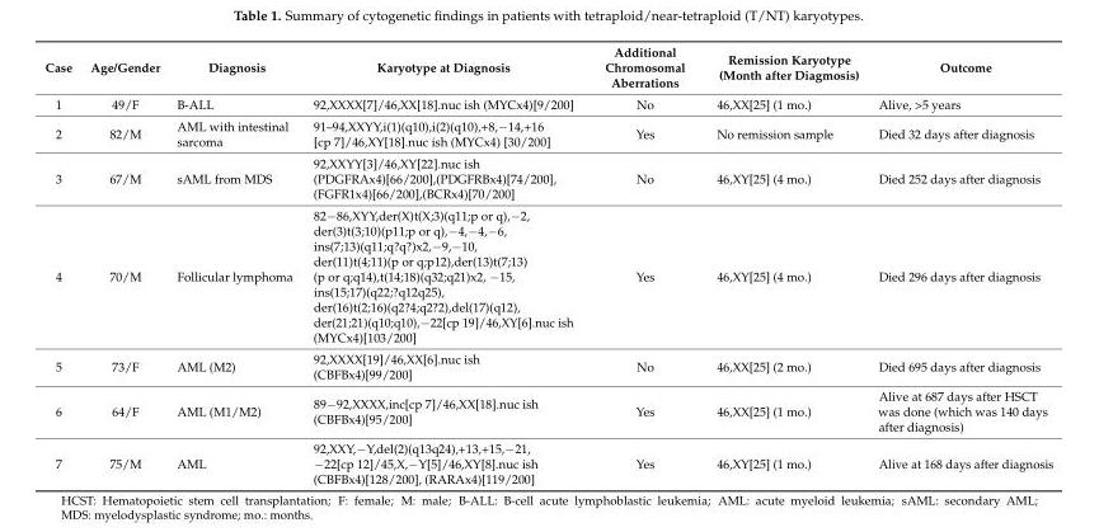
<table><thead><tr><td>Case</td><td>Age/Gender</td><td>Diagnosis</td><td>Karyotype at Diagnosis</td><td>Additional Chromosomal Aberrations</td><td>Remission Karyotype (Month after Diagmosis)</td><td>Outcome</td></tr></thead><tbody><tr><td>1</td><td>49/F</td><td>B-ALL</td><td>92,XXXX[7]/46,XX[18].nuc ish (MYCx4)[9/200]</td><td>No</td><td>46,XX[25] (1 mo.)</td><td>Alive, &gt;5 years</td></tr><tr><td>2</td><td>82/M</td><td>AML with intestinal sarcoma</td><td>91–94,XXYY,i(1)(q10),i(2)(q10),+8,−14,+16 [cp 7]/46,XY[18].nuc ish (MYCx4) [30/200]</td><td>Yes</td><td>No remission sample</td><td>Died 32 days after diagnosis</td></tr><tr><td>3</td><td>67/M</td><td>sAML from MDS</td><td>92,XXYY[3]/46,XY[22].nuc ish (PDGFRAx4)[66/200],(PDGFRBx4)[74/200], (FGFR1x4)[66/200],(BCRx4)[70/200]</td><td>No</td><td>46,XY[25] (4 mo.)</td><td>Died 252 days after diagnosis</td></tr><tr><td>4</td><td>70/M</td><td>Follicular lymphoma</td><td>82−86,XYY,der(X)t(X;3)(q11;p or q),−2, der(3)t(3;10)(p11;p or q),−4,−4,−6, ins(7;13)(q11;q?q?)x2,−9,−10, der(11)t(4;11)(p or q;p12),der(13)t(7;13) (p or q;q14),t(14;18)(q32;q21)x2, −15, ins(15;17)(q22;?q12q25), der(16)t(2;16)(q2?4;q2?2),del(17)(q12), der(21;21)(q10;q10),−22[cp 19]/46,XY[6].nuc ish (MYCx4)[103/200]</td><td>Yes</td><td>46,XY[25] (4 mo.)</td><td>Died 296 days after diagnosis</td></tr><tr><td>5</td><td>73/F</td><td>AML (M2)</td><td>92,XXXX[19]/46,XX[6].nuc ish (CBFBx4)[99/200]</td><td>No</td><td>46,XX[25] (2 mo.)</td><td>Died 695 days after diagnosis</td></tr><tr><td>6</td><td>64/F</td><td>AML (M1/M2)</td><td>89−92,XXXX,inc[cp 7]/46,XX[18].nuc ish (CBFBx4)[95/200]</td><td>Yes</td><td>46,XX[25] (1 mo.)</td><td>Alive at 687 days after HSCT was done (which was 140 days after diagnosis)</td></tr><tr><td>7</td><td>75/M</td><td>AML</td><td>92,XXY,−Y,del(2)(q13q24),+13,+15,−21, −22[cp 12]/45,X,−Y[5]/46,XY[8].nuc ish (CBFBx4)[128/200], (RARAx4)[119/200]</td><td>Yes</td><td>46,XY[25] (1 mo.)</td><td>Alive at 168 days after diagnosis</td></tr></tbody></table>